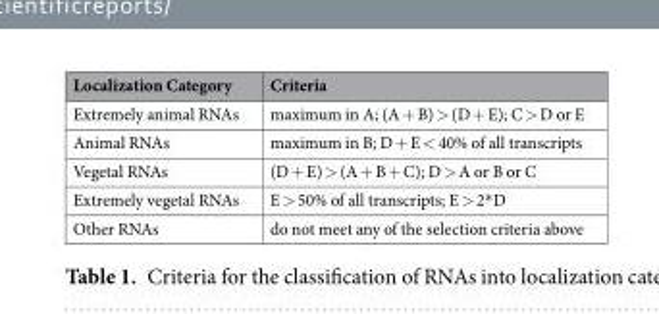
<table><thead><tr><td>Localization Category</td><td>Criteria</td></tr></thead><tbody><tr><td>Extremely animal RNAs</td><td>maximum in A; (A + B) &gt; (D + E); C &gt; D or E</td></tr><tr><td>Animal RNAs</td><td>maximum in B; D + E &lt; 40% of all transcripts</td></tr><tr><td>Vegetal RNAs</td><td>(D + E) &gt; (A + B + C); D &gt; A or B or C</td></tr><tr><td>Extremely vegetal RNAs</td><td>E &gt; 50% of all transcripts; E &gt; 2*D</td></tr><tr><td>Other RNAs</td><td>do not meet any of the selection criteria above</td></tr></tbody></table>